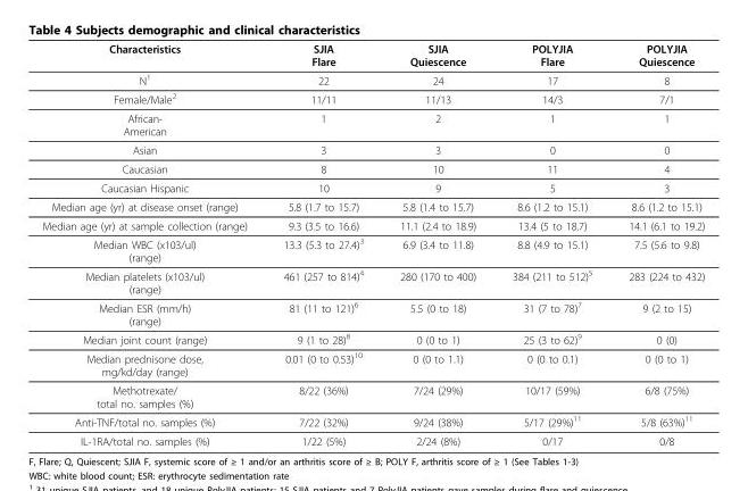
<table><thead><tr><td>Characteristics</td><td>SJIA Flare</td><td>SJIA Quiescence</td><td>POLYJIA Flare</td><td>POLYJIA Quiescence</td></tr></thead><tbody><tr><td>N<sup>1</sup></td><td>22</td><td>24</td><td>17</td><td>8</td></tr><tr><td>Female/Male<sup>2</sup></td><td>11/11</td><td>11/13</td><td>14/3</td><td>7/1</td></tr><tr><td>African- American</td><td>1</td><td>2</td><td>1</td><td>1</td></tr><tr><td>Asian</td><td>3</td><td>3</td><td>0</td><td>0</td></tr><tr><td>Caucasian</td><td>8</td><td>10</td><td>11</td><td>4</td></tr><tr><td>Caucasian Hispanic</td><td>10</td><td>9</td><td>5</td><td>3</td></tr><tr><td>Median age (yr) at disease onset (range)</td><td>5.8 (1.7 to 15.7)</td><td>5.8 (1.4 to 15.7)</td><td>8.6 (1.2 to 15.1)</td><td>8.6 (1.2 to 15.1)</td></tr><tr><td>Median age (yr) at sample collection (range)</td><td>9.3 (3.5 to 16.6)</td><td>11.1 (2.4 to 18.9)</td><td>13.4 (5 to 18.7)</td><td>14.1 (6.1 to 19.2)</td></tr><tr><td>Median WBC (x103/ul) (range)</td><td>13.3 (5.3 to 27.4)<sup>3</sup></td><td>6.9 (3.4 to 11.8)</td><td>8.8 (4.9 to 15.1)</td><td>7.5 (5.6 to 9.8)</td></tr><tr><td>Median platelets (x103/ul) (range)</td><td>461 (257 to 814)<sup>4</sup></td><td>280 (170 to 400)</td><td>384 (211 to 512)<sup>5</sup></td><td>283 (224 to 432)</td></tr><tr><td>Median ESR (mm/h) (range)</td><td>81 (11 to 121)<sup>6</sup></td><td>5.5 (0 to 18)</td><td>31 (7 to 78)<sup>7</sup></td><td>9 (2 to 15)</td></tr><tr><td>Median joint count (range)</td><td>9 (1 to 28)<sup>8</sup></td><td>0 (0 to 1)</td><td>25 (3 to 62)<sup>9</sup></td><td>0 (0)</td></tr><tr><td>Median prednisone dose, mg/kd/day (range)</td><td>0.01 (0 to 0.53)<sup>10</sup></td><td>0 (0 to 1.1)</td><td>0 (0 to 0.1)</td><td>0 (0 to 1)</td></tr><tr><td>Methotrexate/ total no. samples (%)</td><td>8/22 (36%)</td><td>7/24 (29%)</td><td>10/17 (59%)</td><td>6/8 (75%)</td></tr><tr><td>Anti-TNF/total no. samples (%)</td><td>7/22 (32%)</td><td>9/24 (38%)</td><td>5/17 (29%)<sup>11</sup></td><td>5/8 (63%)<sup>11</sup></td></tr><tr><td>IL-1RA/total no. samples (%)</td><td>1/22 (5%)</td><td>2/24 (8%)</td><td>0/17</td><td>0/8</td></tr></tbody></table>